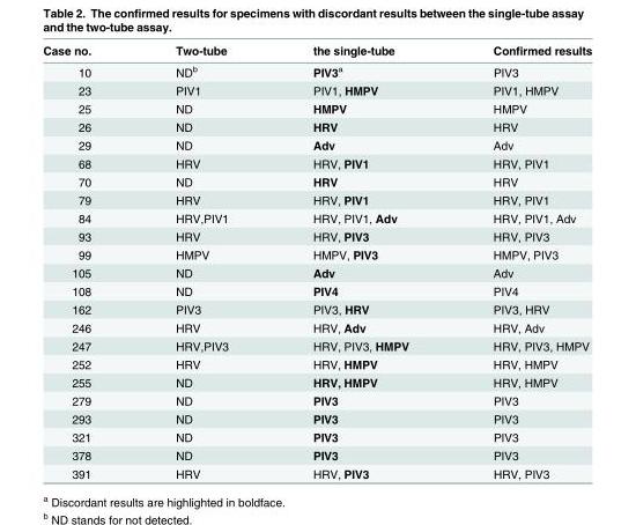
<table><thead><tr><td>Case no.</td><td>Two-tube</td><td>the single-tube</td><td>Confirmed results</td></tr></thead><tbody><tr><td>10</td><td>ND<sup>b</sup></td><td>PIV3<sup>a</sup></td><td>PIV3</td></tr><tr><td>23</td><td>PIV1</td><td>PIV1, HMPV</td><td>PIV1, HMPV</td></tr><tr><td>25</td><td>ND</td><td>HMPV</td><td>HMPV</td></tr><tr><td>26</td><td>ND</td><td>HRV</td><td>HRV</td></tr><tr><td>29</td><td>ND</td><td>Adv</td><td>Adv</td></tr><tr><td>68</td><td>HRV</td><td>HRV, PIV1</td><td>HRV, PIV1</td></tr><tr><td>70</td><td>ND</td><td>HRV</td><td>HRV</td></tr><tr><td>79</td><td>HRV</td><td>HRV, PIV1</td><td>HRV, PIV1</td></tr><tr><td>84</td><td>HRV,PIV1</td><td>HRV, PIV1, Adv</td><td>HRV, PIV1, Adv</td></tr><tr><td>93</td><td>HRV</td><td>HRV, PIV3</td><td>HRV, PIV3</td></tr><tr><td>99</td><td>HMPV</td><td>HMPV, PIV3</td><td>HMPV, PIV3</td></tr><tr><td>105</td><td>ND</td><td>Adv</td><td>Adv</td></tr><tr><td>108</td><td>ND</td><td>PIV4</td><td>PIV4</td></tr><tr><td>162</td><td>PIV3</td><td>PIV3, HRV</td><td>PIV3, HRV</td></tr><tr><td>246</td><td>HRV</td><td>HRV, Adv</td><td>HRV, Adv</td></tr><tr><td>247</td><td>HRV,PIV3</td><td>HRV, PIV3, HMPV</td><td>HRV, PIV3, HMPV</td></tr><tr><td>252</td><td>HRV</td><td>HRV, HMPV</td><td>HRV, HMPV</td></tr><tr><td>255</td><td>ND</td><td>HRV, HMPV</td><td>HRV, HMPV</td></tr><tr><td>279</td><td>ND</td><td>PIV3</td><td>PIV3</td></tr><tr><td>293</td><td>ND</td><td>PIV3</td><td>PIV3</td></tr><tr><td>321</td><td>ND</td><td>PIV3</td><td>PIV3</td></tr><tr><td>378</td><td>ND</td><td>PIV3</td><td>PIV3</td></tr><tr><td>391</td><td>HRV</td><td>HRV, PIV3</td><td>HRV, PIV3</td></tr></tbody></table>